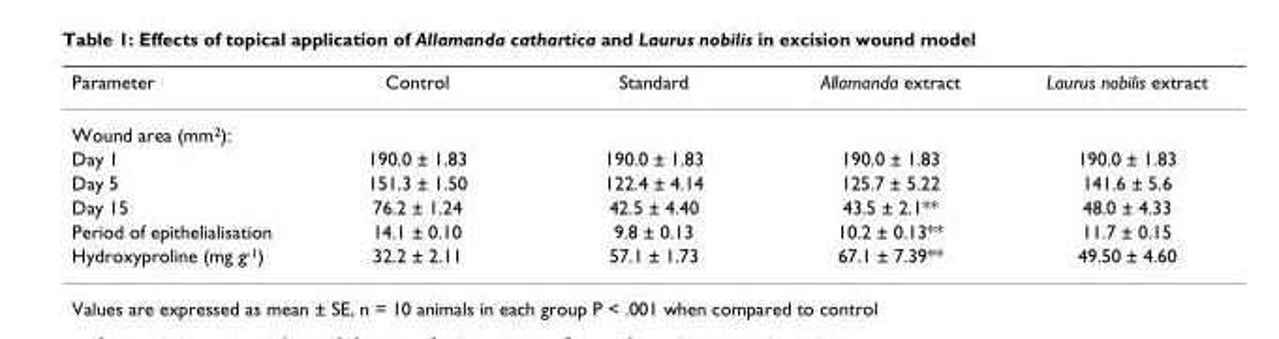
<table><thead><tr><td>Parameter</td><td>Control</td><td>Standard</td><td>Allamanda extract</td><td>Laurus nobilis extract</td></tr></thead><tbody><tr><td colspan="5">Wound area (mm<sup>2</sup>):</td></tr><tr><td>Day 1</td><td>190.0 ± 1.83</td><td>190.0 ± 1.83</td><td>190.0 ± 1.83</td><td>190.0 ± 1.83</td></tr><tr><td>Day 5</td><td>151.3 ± 1.50</td><td>122.4 ± 4.14</td><td>125.7 ± 5.22</td><td>141.6 ± 5.6</td></tr><tr><td>Day 15</td><td>76.2 ± 1.24</td><td>42.5 ± 4.40</td><td>43.5 ± 2.1**</td><td>48.0 ± 4.33</td></tr><tr><td>Period of epithelialisation</td><td>14.1 ± 0.10</td><td>9.8 ± 0.13</td><td>10.2 ± 0.13**</td><td>11.7 ± 0.15</td></tr><tr><td>Hydroxyproline (mg g<sup>-1</sup>)</td><td>32.2 ± 2.11</td><td>57.1 ± 1.73</td><td>67.1 ± 7.39**</td><td>49.50 ± 4.60</td></tr></tbody></table>